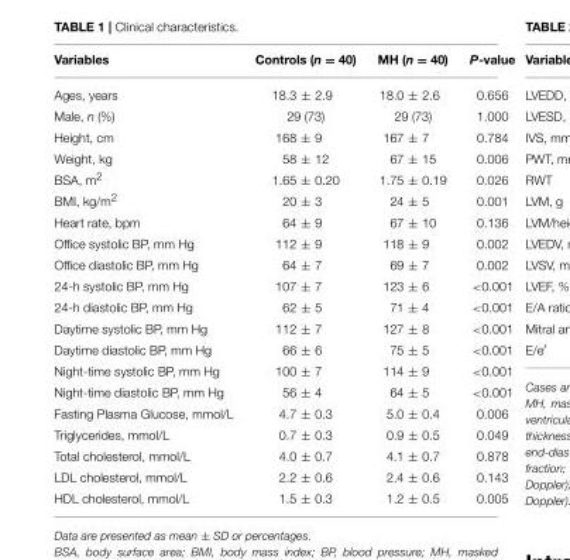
<table><thead><tr><td>Variables</td><td>Controls (n = 40)</td><td>MH (n = 40)</td><td>P-value</td></tr></thead><tbody><tr><td>Ages, years</td><td>18.3 ± 2.9</td><td>18.0 ± 2.6</td><td>0.656</td></tr><tr><td>Male, n (%)</td><td>29 (73)</td><td>29 (73)</td><td>1.000</td></tr><tr><td>Height, cm</td><td>168 ± 9</td><td>167 ± 7</td><td>0.784</td></tr><tr><td>Weight, kg</td><td>58 ± 12</td><td>67 ± 15</td><td>0.006</td></tr><tr><td>BSA, m<sup>2</sup></td><td>1.65 ± 0.20</td><td>1.75 ± 0.19</td><td>0.026</td></tr><tr><td>BMI, kg/m<sup>2</sup></td><td>20 ± 3</td><td>24 ± 5</td><td>0.001</td></tr><tr><td>Heart rate, bpm</td><td>64 ± 9</td><td>67 ± 10</td><td>0.136</td></tr><tr><td>Office systolic BP, mm Hg</td><td>112 ± 9</td><td>118 ± 9</td><td>0.002</td></tr><tr><td>Office diastolic BP, mm Hg</td><td>64 ± 7</td><td>69 ± 7</td><td>0.002</td></tr><tr><td>24-h systolic BP, mm Hg</td><td>107 ± 7</td><td>123 ± 6</td><td>&lt;0.001</td></tr><tr><td>24-h diastolic BP, mm Hg</td><td>62 ± 5</td><td>71 ± 4</td><td>&lt;0.001</td></tr><tr><td>Daytime systolic BP, mm Hg</td><td>112 ± 7</td><td>127 ± 8</td><td>&lt;0.001</td></tr><tr><td>Daytime diastolic BP, mm Hg</td><td>66 ± 6</td><td>75 ± 5</td><td>&lt;0.001</td></tr><tr><td>Night-time systolic BP, mm Hg</td><td>100 ± 7</td><td>114 ± 9</td><td>&lt;0.001</td></tr><tr><td>Night-time diastolic BP, mm Hg</td><td>56 ± 4</td><td>64 ± 5</td><td>&lt;0.001</td></tr><tr><td>Fasting Plasma Glucose, mmol/L</td><td>4.7 ± 0.3</td><td>5.0 ± 0.4</td><td>0.006</td></tr><tr><td>Triglycerides, mmol/L</td><td>0.7 ± 0.3</td><td>0.9 ± 0.5</td><td>0.049</td></tr><tr><td>Total cholesterol, mmol/L</td><td>4.0 ± 0.7</td><td>4.1 ± 0.7</td><td>0.878</td></tr><tr><td>LDL cholesterol, mmol/L</td><td>2.2 ± 0.6</td><td>2.4 ± 0.6</td><td>0.143</td></tr><tr><td>HDL cholesterol, mmol/L</td><td>1.5 ± 0.3</td><td>1.2 ± 0.5</td><td>0.005</td></tr></tbody></table>